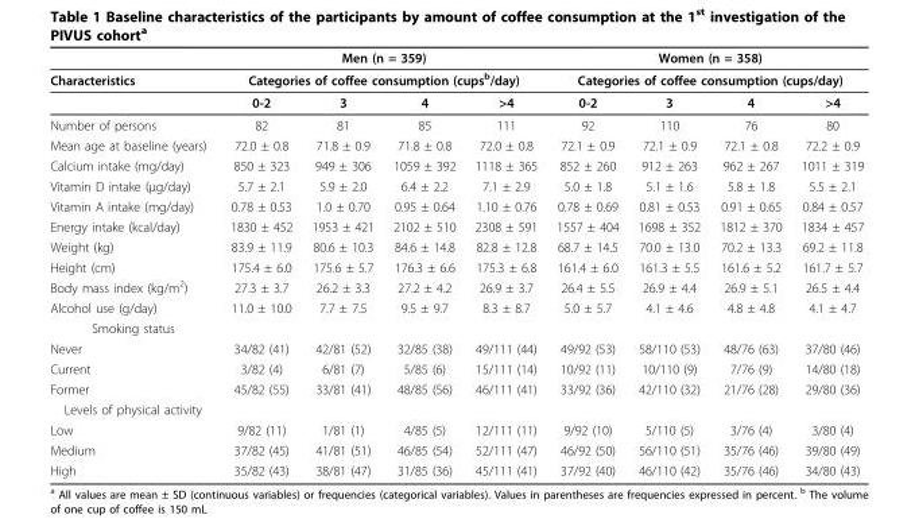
<table><thead><tr><td rowspan="3">Characteristics</td><td rowspan="2" colspan="4">Men (n = 359) Categories of coffee consumption (cupsb/day)</td><td rowspan="2" colspan="4">Women (n = 358) Categories of coffee consumption (cups/day)</td></tr><tr></tr><tr><td>0-2</td><td>3</td><td>4</td><td>&gt;4</td><td>0-2</td><td>3</td><td>4</td><td>&gt;4</td></tr></thead><tbody><tr><td>Number of persons</td><td>82</td><td>81</td><td>85</td><td>111</td><td>92</td><td>110</td><td>76</td><td>80</td></tr><tr><td>Mean age at baseline (years)</td><td>72.0 ± 0.8</td><td>71.8 ± 0.9</td><td>71.8 ± 0.8</td><td>72.0 ± 0.8</td><td>72.1 ± 0.9</td><td>72.1 ± 0.9</td><td>72.1 ± 0.8</td><td>72.2 ± 0.9</td></tr><tr><td>Calcium intake (mg/day)</td><td>850 ± 323</td><td>949 ± 306</td><td>1059 ± 392</td><td>1118 ± 365</td><td>852 ± 260</td><td>912 ± 263</td><td>962 ± 267</td><td>1011 ± 319</td></tr><tr><td>Vitamin D intake (μg/day)</td><td>5.7 ± 2.1</td><td>5.9 ± 2.0</td><td>6.4 ± 2.2</td><td>7.1 ± 2.9</td><td>5.0 ± 1.8</td><td>5.1 ± 1.6</td><td>5.8 ± 1.8</td><td>5.5 ± 2.1</td></tr><tr><td>Vitamin A intake (mg/day)</td><td>0.78 ± 0.53</td><td>1.0 ± 0.70</td><td>0.95 ± 0.64</td><td>1.10 ± 0.76</td><td>0.78 ± 0.69</td><td>0.81 ± 0.53</td><td>0.91 ± 0.65</td><td>0.84 ± 0.57</td></tr><tr><td>Energy intake (kcal/day)</td><td>1830 ± 452</td><td>1953 ± 421</td><td>2102 ± 510</td><td>2308 ± 591</td><td>1557 ± 404</td><td>1698 ± 352</td><td>1812 ± 370</td><td>1834 ± 457</td></tr><tr><td>Weight (kg)</td><td>83.9 ± 11.9</td><td>80.6 ± 10.3</td><td>84.6 ± 14.8</td><td>82.8 ± 12.8</td><td>68.7 ± 14.5</td><td>70.0 ± 13.0</td><td>70.2 ± 13.3</td><td>69.2 ± 11.8</td></tr><tr><td>Height (cm)</td><td>175.4 ± 6.0</td><td>175.6 ± 5.7</td><td>176.3 ± 6.6</td><td>175.3 ± 6.8</td><td>161.4 ± 6.0</td><td>161.3 ± 5.5</td><td>161.6 ± 5.2</td><td>161.7 ± 5.7</td></tr><tr><td>Body mass index (kg/m<sup>2</sup>)</td><td>27.3 ± 3.7</td><td>26.2 ± 3.3</td><td>27.2 ± 4.2</td><td>26.9 ± 3.7</td><td>26.4 ± 5.5</td><td>26.9 ± 4.4</td><td>26.9 ± 5.1</td><td>26.5 ± 4.4</td></tr><tr><td>Alcohol use (g/day)</td><td>11.0 ± 10.0</td><td>7.7 ± 7.5</td><td>9.5 ± 9.7</td><td>8.3 ± 8.7</td><td>5.0 ± 5.7</td><td>4.1 ± 4.6</td><td>4.8 ± 4.8</td><td>4.1 ± 4.7</td></tr><tr><td colspan="9">Smoking status</td></tr><tr><td>Never</td><td>34/82 (41)</td><td>42/81 (52)</td><td>32/85 (38)</td><td>49/111 (44)</td><td>49/92 (53)</td><td>58/110 (53)</td><td>48/76 (63)</td><td>37/80 (46)</td></tr><tr><td>Current</td><td>3/82 (4)</td><td>6/81 (7)</td><td>5/85 (6)</td><td>15/111 (14)</td><td>10/92 (11)</td><td>10/110 (9)</td><td>7/76 (9)</td><td>14/80 (18)</td></tr><tr><td>Former</td><td>45/82 (55)</td><td>33/81 (41)</td><td>48/85 (56)</td><td>46/111 (41)</td><td>33/92 (36)</td><td>42/110 (32)</td><td>21/76 (28)</td><td>29/80 (36)</td></tr><tr><td colspan="9">Levels of physical activity</td></tr><tr><td>Low</td><td>9/82 (11)</td><td>1/81 (1)</td><td>4/85 (5)</td><td>12/111 (11)</td><td>9/92 (10)</td><td>5/110 (5)</td><td>3/76 (4)</td><td>3/80 (4)</td></tr><tr><td>Medium</td><td>37/82 (45)</td><td>41/81 (51)</td><td>46/85 (54)</td><td>52/111 (47)</td><td>46/92 (50)</td><td>56/110 (51)</td><td>35/76 (46)</td><td>39/80 (49)</td></tr><tr><td>High</td><td>35/82 (43)</td><td>38/81 (47)</td><td>31/85 (36)</td><td>45/111 (41)</td><td>37/92 (40)</td><td>46/110 (42)</td><td>35/76 (46)</td><td>34/80 (43)</td></tr></tbody></table>